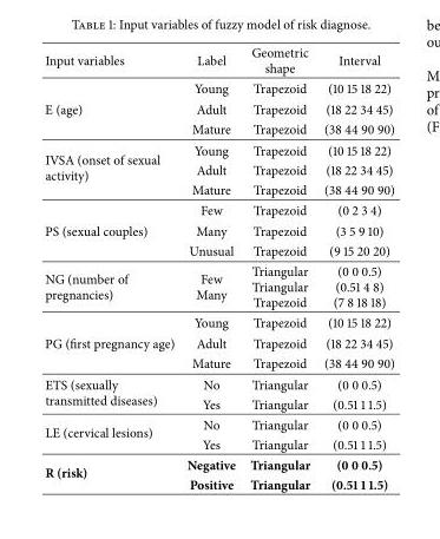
<table><thead><tr><td>Input variables</td><td>Label</td><td>Geometric shape</td><td>Interval</td></tr></thead><tbody><tr><td></td><td>Young</td><td>Trapezoid</td><td>(10 15 18 22)</td></tr><tr><td rowspan="2">E (age)</td><td>Adult</td><td>Trapezoid</td><td>(18 22 34 45)</td></tr><tr><td>Mature</td><td>Trapezoid</td><td>(38 44 90 90)</td></tr><tr><td rowspan="4">IVSA (onset of sexual activity)</td><td>Young</td><td>Trapezoid</td><td>(10 15 18 22)</td></tr><tr><td>Adult</td><td>Trapezoid</td><td>(18 22 34 45)</td></tr><tr><td>Mature</td><td>Trapezoid</td><td>(38 44 90 90)</td></tr><tr><td>Few</td><td>Trapezoid</td><td>(0 2 3 4)</td></tr><tr><td rowspan="2">PS (sexual couples)</td><td>Many</td><td>Trapezoid</td><td>(3 5 9 10)</td></tr><tr><td>Unusual</td><td>Trapezoid</td><td>(9 15 20 20)</td></tr><tr><td rowspan="2">NG (number of pregnancies)</td><td>Few Many</td><td>Triangular Triangular Trapezoid</td><td>(0 0 0.5) (0.51 4 8) (7 8 18 18)</td></tr><tr><td>Young</td><td>Trapezoid</td><td>(10 15 18 22)</td></tr><tr><td rowspan="2">PG (first pregnancy age)</td><td>Adult</td><td>Trapezoid</td><td>(18 22 34 45)</td></tr><tr><td>Mature</td><td>Trapezoid</td><td>(38 44 90 90)</td></tr><tr><td rowspan="2">ETS (sexually transmitted diseases)</td><td>No</td><td>Triangular</td><td>(0 0 0.5)</td></tr><tr><td>Yes</td><td>Triangular</td><td>(0.51 1 1.5)</td></tr><tr><td rowspan="2">LE (cervical lesions)</td><td>No</td><td>Triangular</td><td>(0 0 0.5)</td></tr><tr><td>Yes</td><td>Triangular</td><td>(0.51 1 1.5)</td></tr><tr><td rowspan="2">R (risk)</td><td>Negative</td><td>Triangular</td><td>(0 0 0.5)</td></tr><tr><td>Positive</td><td>Triangular</td><td>(0.51 1 1.5)</td></tr></tbody></table>